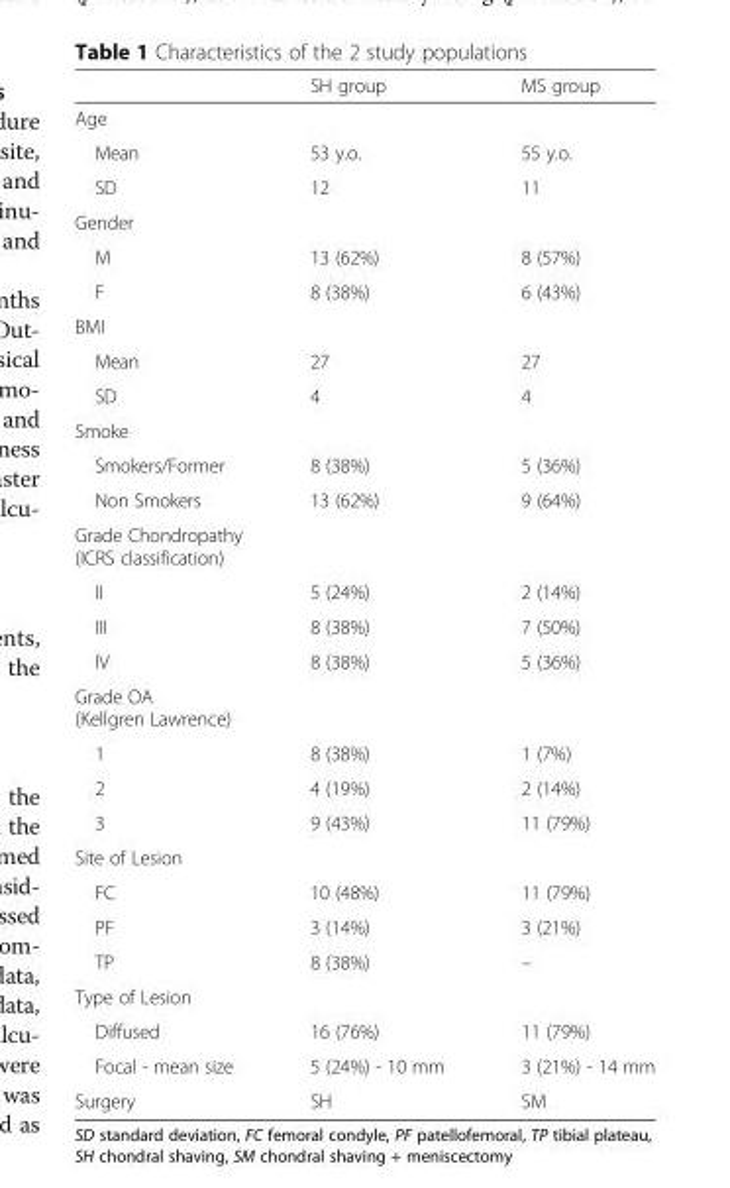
<table><thead><tr><td></td><td>SH group</td><td>MS group</td></tr></thead><tbody><tr><td colspan="3">Age</td></tr><tr><td>Mean</td><td>53 y.o.</td><td>55 y.o.</td></tr><tr><td>SD</td><td>12</td><td>11</td></tr><tr><td colspan="3">Gender</td></tr><tr><td>M</td><td>13 (62%)</td><td>8 (57%)</td></tr><tr><td>F</td><td>8 (38%)</td><td>6 (43%)</td></tr><tr><td colspan="3">BMI</td></tr><tr><td>Mean</td><td>27</td><td>27</td></tr><tr><td>SD</td><td>4</td><td>4</td></tr><tr><td colspan="3">Smoke</td></tr><tr><td>Smokers/Former</td><td>8 (38%)</td><td>5 (36%)</td></tr><tr><td>Non Smokers</td><td>13 (62%)</td><td>9 (64%)</td></tr><tr><td colspan="3">Grade Chondropathy (ICRS classification)</td></tr><tr><td>II</td><td>5 (24%)</td><td>2 (14%)</td></tr><tr><td>III</td><td>8 (38%)</td><td>7 (50%)</td></tr><tr><td>IV</td><td>8 (38%)</td><td>5 (36%)</td></tr><tr><td colspan="3">Grade OA (Kellgren Lawrence)</td></tr><tr><td>1</td><td>8 (38%)</td><td>1 (7%)</td></tr><tr><td>2</td><td>4 (19%)</td><td>2 (14%)</td></tr><tr><td>3</td><td>9 (43%)</td><td>11 (79%)</td></tr><tr><td colspan="3">Site of Lesion</td></tr><tr><td>FC</td><td>10 (48%)</td><td>11 (79%)</td></tr><tr><td>PF</td><td>3 (14%)</td><td>3 (21%)</td></tr><tr><td>TP</td><td>8 (38%)</td><td>–</td></tr><tr><td colspan="3">Type of Lesion</td></tr><tr><td>Diffused</td><td>16 (76%)</td><td>11 (79%)</td></tr><tr><td>Focal - mean size</td><td>5 (24%) - 10 mm</td><td>3 (21%) - 14 mm</td></tr><tr><td>Surgery</td><td>SH</td><td>SM</td></tr></tbody></table>